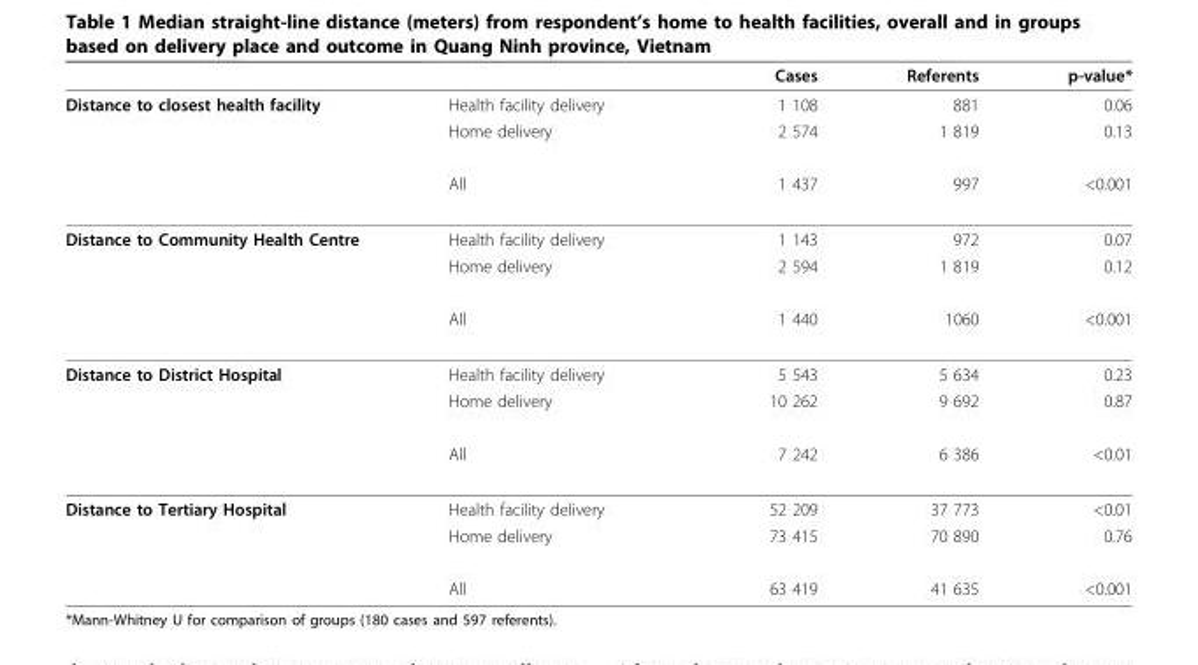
<table><thead><tr><td></td><td></td><td>Cases</td><td>Referents</td><td>p-value*</td></tr></thead><tbody><tr><td rowspan="3">Distance to closest health facility</td><td>Health facility delivery</td><td>1 108</td><td>881</td><td>0.06</td></tr><tr><td>Home delivery</td><td>2 574</td><td>1 819</td><td>0.13</td></tr><tr><td>All</td><td>1 437</td><td>997</td><td>&lt;0.001</td></tr><tr><td rowspan="3">Distance to Community Health Centre</td><td>Health facility delivery</td><td>1 143</td><td>972</td><td>0.07</td></tr><tr><td>Home delivery</td><td>2 594</td><td>1 819</td><td>0.12</td></tr><tr><td>All</td><td>1 440</td><td>1060</td><td>&lt;0.001</td></tr><tr><td rowspan="3">Distance to District Hospital</td><td>Health facility delivery</td><td>5 543</td><td>5 634</td><td>0.23</td></tr><tr><td>Home delivery</td><td>10 262</td><td>9 692</td><td>0.87</td></tr><tr><td>All</td><td>7 242</td><td>6 386</td><td>&lt;0.01</td></tr><tr><td rowspan="3">Distance to Tertiary Hospital</td><td>Health facility delivery</td><td>52 209</td><td>37 773</td><td>&lt;0.01</td></tr><tr><td>Home delivery</td><td>73 415</td><td>70 890</td><td>0.76</td></tr><tr><td>All</td><td>63 419</td><td>41 635</td><td>&lt;0.001</td></tr></tbody></table>